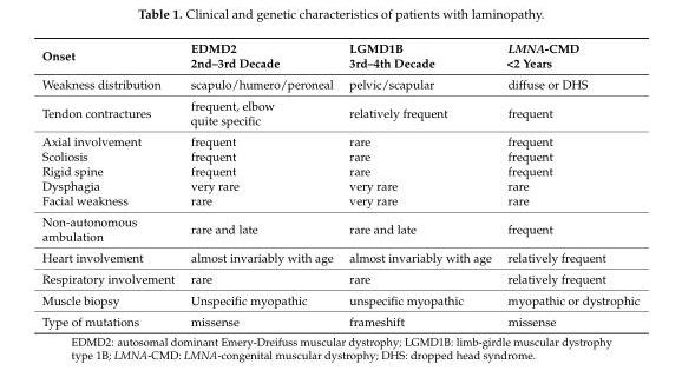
<table><thead><tr><td>Onset</td><td>EDMD2 2nd–3rd Decade</td><td>LGMD1B 3rd–4th Decade</td><td>LMNA-CMD &lt;2 Years</td></tr></thead><tbody><tr><td>Weakness distribution</td><td>scapulo/humero/peroneal</td><td>pelvic/scapular</td><td>diffuse or DHS</td></tr><tr><td>Tendon contractures</td><td>frequent, elbow quite specific</td><td>relatively frequent</td><td>frequent</td></tr><tr><td>Axial involvement</td><td>frequent</td><td>rare</td><td>frequent</td></tr><tr><td>Scoliosis</td><td>frequent</td><td>rare</td><td>frequent</td></tr><tr><td>Rigid spine</td><td>frequent</td><td>rare</td><td>frequent</td></tr><tr><td>Dysphagia</td><td>very rare</td><td>very rare</td><td>rare</td></tr><tr><td>Facial weakness</td><td>rare</td><td>very rare</td><td>rare</td></tr><tr><td>Non-autonomous ambulation</td><td>rare and late</td><td>rare and late</td><td>frequent</td></tr><tr><td>Heart involvement</td><td>almost invariably with age</td><td>almost invariably with age</td><td>relatively frequent</td></tr><tr><td>Respiratory involvement</td><td>rare</td><td>rare</td><td>relatively frequent</td></tr><tr><td>Muscle biopsy</td><td>Unspecific myopathic</td><td>unspecific myopathic</td><td>myopathic or dystrophic</td></tr><tr><td>Type of mutations</td><td>missense</td><td>frameshift</td><td>missense</td></tr></tbody></table>